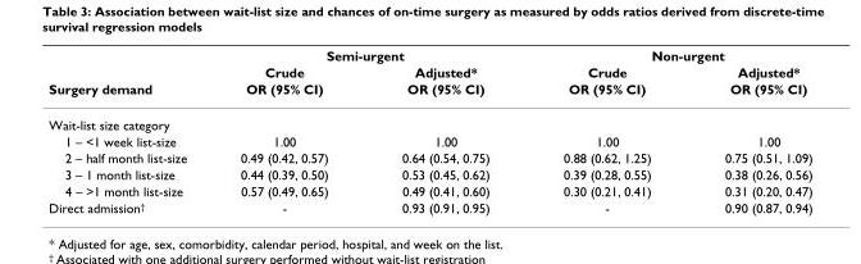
<table><thead><tr><td rowspan="3">Surgery demand</td><td colspan="2">Semi-urgent</td><td colspan="2">Non-urgent</td></tr><tr><td rowspan="2">Crude OR (95% CI)</td><td rowspan="2">Adjusted* OR (95% CI)</td><td rowspan="2">Crude OR (95% CI)</td><td rowspan="2">Adjusted* OR (95% CI)</td></tr><tr></tr></thead><tbody><tr><td colspan="5">Wait-list size category</td></tr><tr><td>1 – &lt;1 week list-size</td><td>1.00</td><td>1.00</td><td>1.00</td><td>1.00</td></tr><tr><td>2 – half month list-size</td><td>0.49 (0.42, 0.57)</td><td>0.64 (0.54, 0.75)</td><td>0.88 (0.62, 1.25)</td><td>0.75 (0.51, 1.09)</td></tr><tr><td>3 – 1 month list-size</td><td>0.44 (0.39, 0.50)</td><td>0.53 (0.45, 0.62)</td><td>0.39 (0.28, 0.55)</td><td>0.38 (0.26, 0.56)</td></tr><tr><td>4 – &gt;1 month list-size</td><td>0.57 (0.49, 0.65)</td><td>0.49 (0.41, 0.60)</td><td>0.30 (0.21, 0.41)</td><td>0.31 (0.20, 0.47)</td></tr><tr><td>Direct admission<sup>†</sup></td><td>-</td><td>0.93 (0.91, 0.95)</td><td>-</td><td>0.90 (0.87, 0.94)</td></tr></tbody></table>